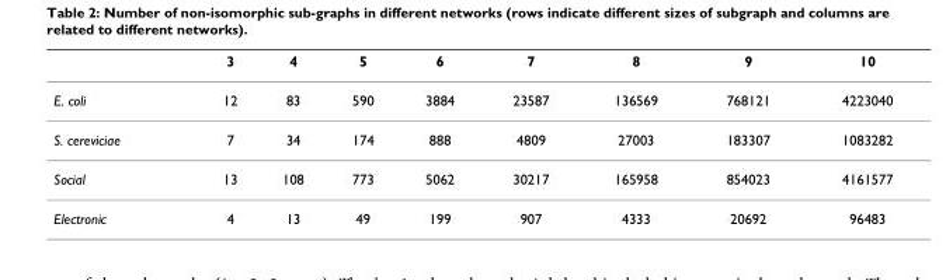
<table><thead><tr><td></td><td>3</td><td>4</td><td>5</td><td>6</td><td>7</td><td>8</td><td>9</td><td>10</td></tr></thead><tbody><tr><td>E. coli</td><td>12</td><td>83</td><td>590</td><td>3884</td><td>23587</td><td>136569</td><td>768121</td><td>4223040</td></tr><tr><td>S. cereviciae</td><td>7</td><td>34</td><td>174</td><td>888</td><td>4809</td><td>27003</td><td>183307</td><td>1083282</td></tr><tr><td>Social</td><td>13</td><td>108</td><td>773</td><td>5062</td><td>30217</td><td>165958</td><td>854023</td><td>4161577</td></tr><tr><td>Electronic</td><td>4</td><td>13</td><td>49</td><td>199</td><td>907</td><td>4333</td><td>20692</td><td>96483</td></tr></tbody></table>